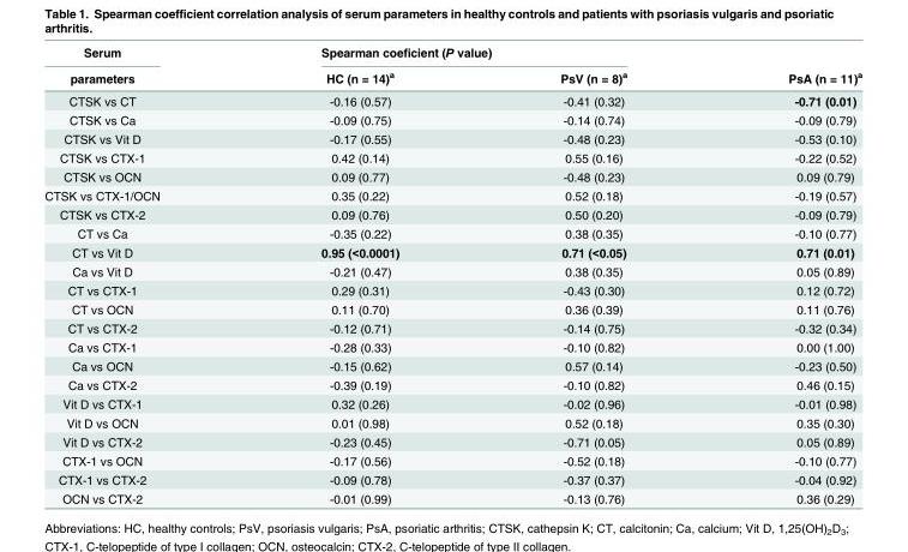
<table><thead><tr><td rowspan="2">Serum parameters</td><td colspan="2">Spearman coeficient (P value)</td><td rowspan="2">PsA (n = 11)<sup>a</sup></td></tr><tr><td>HC (n = 14)<sup>a</sup></td><td>PsV (n = 8)<sup>a</sup></td></tr></thead><tbody><tr><td>CTSK vs CT</td><td>-0.16 (0.57)</td><td>-0.41 (0.32)</td><td>-0.71 (0.01)</td></tr><tr><td>CTSK vs Ca</td><td>-0.09 (0.75)</td><td>-0.14 (0.74)</td><td>-0.09 (0.79)</td></tr><tr><td>CTSK vs Vit D</td><td>-0.17 (0.55)</td><td>-0.48 (0.23)</td><td>-0.53 (0.10)</td></tr><tr><td>CTSK vs CTX-1</td><td>0.42 (0.14)</td><td>0.55 (0.16)</td><td>-0.22 (0.52)</td></tr><tr><td>CTSK vs OCN</td><td>0.09 (0.77)</td><td>-0.48 (0.23)</td><td>0.09 (0.79)</td></tr><tr><td>CTSK vs CTX-1/OCN</td><td>0.35 (0.22)</td><td>0.52 (0.18)</td><td>-0.19 (0.57)</td></tr><tr><td>CTSK vs CTX-2</td><td>0.09 (0.76)</td><td>0.50 (0.20)</td><td>-0.09 (0.79)</td></tr><tr><td>CT vs Ca</td><td>-0.35 (0.22)</td><td>0.38 (0.35)</td><td>-0.10 (0.77)</td></tr><tr><td>CT vs Vit D</td><td>0.95 (&lt;0.0001)</td><td>0.71 (&lt;0.05)</td><td>0.71 (0.01)</td></tr><tr><td>Ca vs Vit D</td><td>-0.21 (0.47)</td><td>0.38 (0.35)</td><td>0.05 (0.89)</td></tr><tr><td>CT vs CTX-1</td><td>0.29 (0.31)</td><td>-0.43 (0.30)</td><td>0.12 (0.72)</td></tr><tr><td>CT vs OCN</td><td>0.11 (0.70)</td><td>0.36 (0.39)</td><td>0.11 (0.76)</td></tr><tr><td>CT vs CTX-2</td><td>-0.12 (0.71)</td><td>-0.14 (0.75)</td><td>-0.32 (0.34)</td></tr><tr><td>Ca vs CTX-1</td><td>-0.28 (0.33)</td><td>-0.10 (0.82)</td><td>0.00 (1.00)</td></tr><tr><td>Ca vs OCN</td><td>-0.15 (0.62)</td><td>0.57 (0.14)</td><td>-0.23 (0.50)</td></tr><tr><td>Ca vs CTX-2</td><td>-0.39 (0.19)</td><td>-0.10 (0.82)</td><td>0.46 (0.15)</td></tr><tr><td>Vit D vs CTX-1</td><td>0.32 (0.26)</td><td>-0.02 (0.96)</td><td>-0.01 (0.98)</td></tr><tr><td>Vit D vs OCN</td><td>0.01 (0.98)</td><td>0.52 (0.18)</td><td>0.35 (0.30)</td></tr><tr><td>Vit D vs CTX-2</td><td>-0.23 (0.45)</td><td>-0.71 (0.05)</td><td>0.05 (0.89)</td></tr><tr><td>CTX-1 vs OCN</td><td>-0.17 (0.56)</td><td>-0.52 (0.18)</td><td>-0.10 (0.77)</td></tr><tr><td>CTX-1 vs CTX-2</td><td>-0.09 (0.78)</td><td>-0.37 (0.37)</td><td>-0.04 (0.92)</td></tr><tr><td>OCN vs CTX-2</td><td>-0.01 (0.99)</td><td>-0.13 (0.76)</td><td>0.36 (0.29)</td></tr></tbody></table>